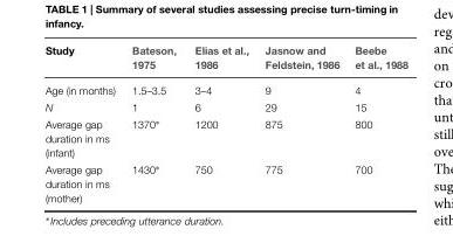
<table><thead><tr><td>Study</td><td>Bateson, 1975</td><td>Elias et al., 1986</td><td>Jasnow and Feldstein, 1986</td><td>Beebe et al., 1988</td></tr></thead><tbody><tr><td>Age (in months)</td><td>1.5–3.5</td><td>3–4</td><td>9</td><td>4</td></tr><tr><td>N</td><td>1</td><td>6</td><td>29</td><td>15</td></tr><tr><td>Average gap duration in ms (infant)</td><td>1370∗</td><td>1200</td><td>875</td><td>800</td></tr><tr><td>Average gap duration in ms (mother)</td><td>1430∗</td><td>750</td><td>775</td><td>700</td></tr></tbody></table>